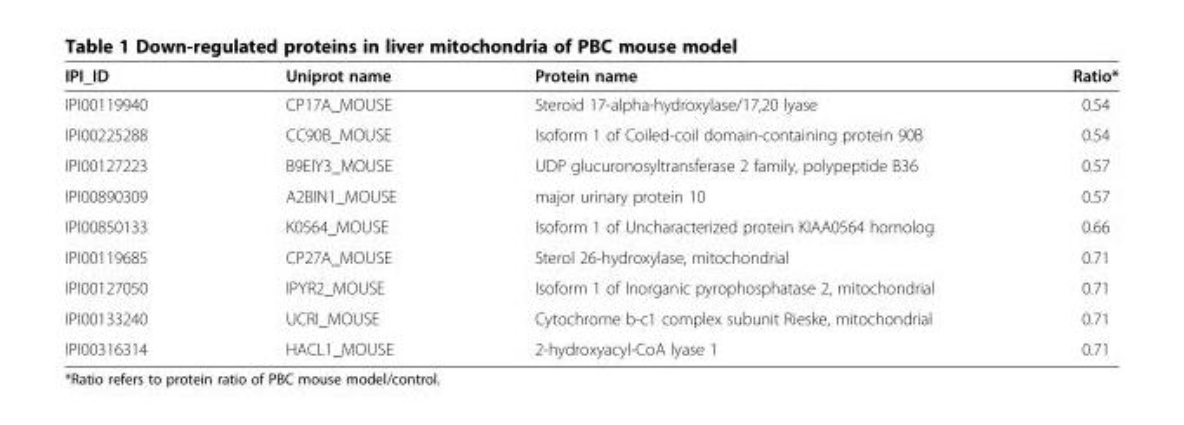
<table><thead><tr><td>IPI_ID</td><td>Uniprot name</td><td>Protein name</td><td>Ratio*</td></tr></thead><tbody><tr><td>IPI00119940</td><td>CP17A_MOUSE</td><td>Steroid 17-alpha-hydroxylase/17,20 lyase</td><td>0.54</td></tr><tr><td>IPI00225288</td><td>CC90B_MOUSE</td><td>Isoform 1 of Coiled-coil domain-containing protein 90B</td><td>0.54</td></tr><tr><td>IPI00127223</td><td>B9EIY3_MOUSE</td><td>UDP glucuronosyltransferase 2 family, polypeptide B36</td><td>0.57</td></tr><tr><td>IPI00890309</td><td>A2BIN1_MOUSE</td><td>major urinary protein 10</td><td>0.57</td></tr><tr><td>IPI00850133</td><td>K0564_MOUSE</td><td>Isoform 1 of Uncharacterized protein KIAA0564 homolog</td><td>0.66</td></tr><tr><td>IPI00119685</td><td>CP27A_MOUSE</td><td>Sterol 26-hydroxylase, mitochondrial</td><td>0.71</td></tr><tr><td>IPI00127050</td><td>IPYR2_MOUSE</td><td>Isoform 1 of Inorganic pyrophosphatase 2, mitochondrial</td><td>0.71</td></tr><tr><td>IPI00133240</td><td>UCRI_MOUSE</td><td>Cytochrome b-c1 complex subunit Rieske, mitochondrial</td><td>0.71</td></tr><tr><td>IPI00316314</td><td>HACL1_MOUSE</td><td>2-hydroxyacyl-CoA lyase 1</td><td>0.71</td></tr></tbody></table>